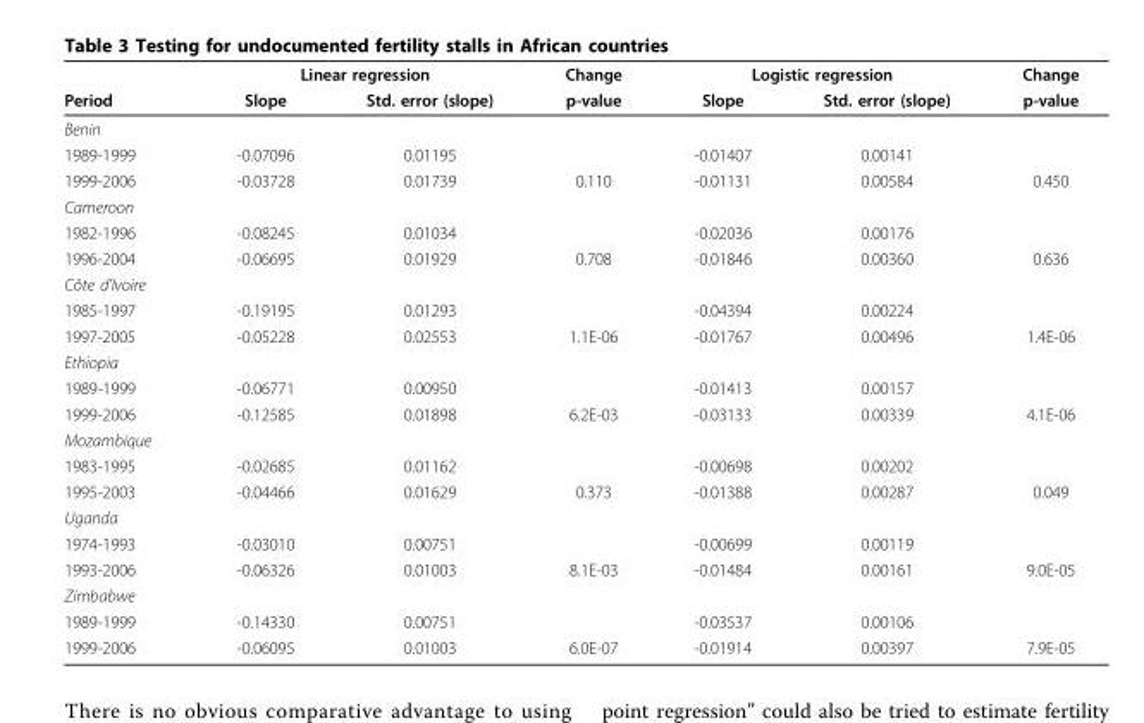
<table><thead><tr><td rowspan="2">Period</td><td colspan="2">Linear regression</td><td rowspan="2">Change p-value</td><td colspan="2">Logistic regression</td><td rowspan="2">Change p-value</td></tr><tr><td>Slope</td><td>Std. error (slope)</td><td>Slope</td><td>Std. error (slope)</td></tr></thead><tbody><tr><td colspan="7">Benin</td></tr><tr><td>1989-1999</td><td>-0.07096</td><td>0.01195</td><td></td><td>-0.01407</td><td>0.00141</td><td></td></tr><tr><td>1999-2006</td><td>-0.03728</td><td>0.01739</td><td>0.110</td><td>-0.01131</td><td>0.00584</td><td>0.450</td></tr><tr><td colspan="7">Cameroon</td></tr><tr><td>1982-1996</td><td>-0.08245</td><td>0.01034</td><td></td><td>-0.02036</td><td>0.00176</td><td></td></tr><tr><td>1996-2004</td><td>-0.06695</td><td>0.01929</td><td>0.708</td><td>-0.01846</td><td>0.00360</td><td>0.636</td></tr><tr><td colspan="7">Côte d’Ivoire</td></tr><tr><td>1985-1997</td><td>-0.19195</td><td>0.01293</td><td></td><td>-0.04394</td><td>0.00224</td><td></td></tr><tr><td>1997-2005</td><td>-0.05228</td><td>0.02553</td><td>1.1E-06</td><td>-0.01767</td><td>0.00496</td><td>1.4E-06</td></tr><tr><td colspan="7">Ethiopia</td></tr><tr><td>1989-1999</td><td>-0.06771</td><td>0.00950</td><td></td><td>-0.01413</td><td>0.00157</td><td></td></tr><tr><td>1999-2006</td><td>-0.12585</td><td>0.01898</td><td>6.2E-03</td><td>-0.03133</td><td>0.00339</td><td>4.1E-06</td></tr><tr><td colspan="7">Mozambique</td></tr><tr><td>1983-1995</td><td>-0.02685</td><td>0.01162</td><td></td><td>-0.00698</td><td>0.00202</td><td></td></tr><tr><td>1995-2003</td><td>-0.04466</td><td>0.01629</td><td>0.373</td><td>-0.01388</td><td>0.00287</td><td>0.049</td></tr><tr><td colspan="7">Uganda</td></tr><tr><td>1974-1993</td><td>-0.03010</td><td>0.00751</td><td></td><td>-0.00699</td><td>0.00119</td><td></td></tr><tr><td>1993-2006</td><td>-0.06326</td><td>0.01003</td><td>8.1E-03</td><td>-0.01484</td><td>0.00161</td><td>9.0E-05</td></tr><tr><td colspan="7">Zimbabwe</td></tr><tr><td>1989-1999</td><td>-0.14330</td><td>0.00751</td><td></td><td>-0.03537</td><td>0.00106</td><td></td></tr><tr><td>1999-2006</td><td>-0.06095</td><td>0.01003</td><td>6.0E-07</td><td>-0.01914</td><td>0.00397</td><td>7.9E-05</td></tr></tbody></table>